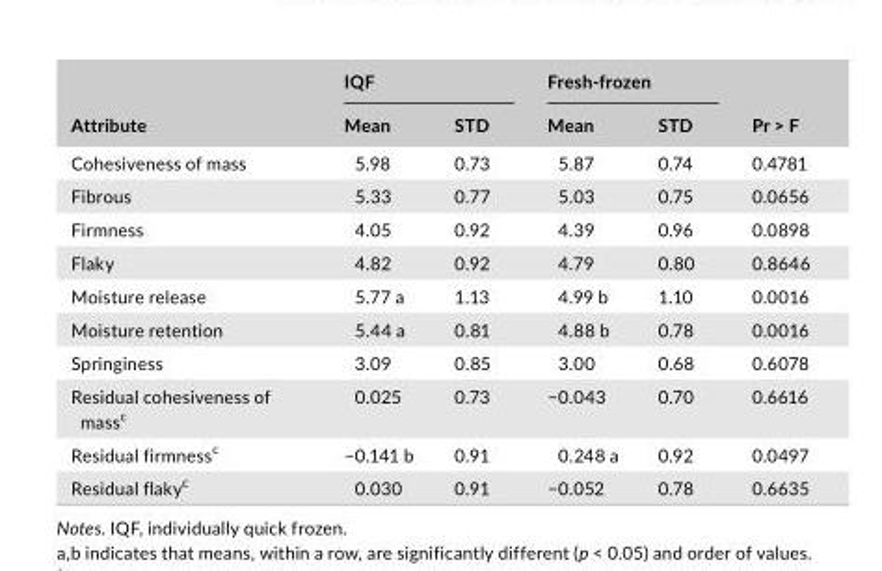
<table><thead><tr><td rowspan="2">Attribute</td><td colspan="2">IQF</td><td colspan="2">Fresh- frozen</td><td rowspan="2">Pr &gt; F</td></tr><tr><td>Mean</td><td>STD</td><td>Mean</td><td>STD</td></tr></thead><tbody><tr><td>Cohesiveness of mass</td><td>5.98</td><td>0.73</td><td>5.87</td><td>0.74</td><td>0.4781</td></tr><tr><td>Fibrous</td><td>5.33</td><td>0.77</td><td>5.03</td><td>0.75</td><td>0.0656</td></tr><tr><td>Firmness</td><td>4.05</td><td>0.92</td><td>4.39</td><td>0.96</td><td>0.0898</td></tr><tr><td>Flaky</td><td>4.82</td><td>0.92</td><td>4.79</td><td>0.80</td><td>0.8646</td></tr><tr><td>Moisture release</td><td>5.77 a</td><td>1.13</td><td>4.99 b</td><td>1.10</td><td>0.0016</td></tr><tr><td>Moisture retention</td><td>5.44 a</td><td>0.81</td><td>4.88 b</td><td>0.78</td><td>0.0016</td></tr><tr><td>Springiness</td><td>3.09</td><td>0.85</td><td>3.00</td><td>0.68</td><td>0.6078</td></tr><tr><td>Residual cohesiveness of mass<sup>c</sup></td><td>0.025</td><td>0.73</td><td>−0.043</td><td>0.70</td><td>0.6616</td></tr><tr><td>Residual firmness<sup>c</sup></td><td>−0.141 b</td><td>0.91</td><td>0.248 a</td><td>0.92</td><td>0.0497</td></tr><tr><td>Residual flaky<sup>c</sup></td><td>0.030</td><td>0.91</td><td>−0.052</td><td>0.78</td><td>0.6635</td></tr></tbody></table>